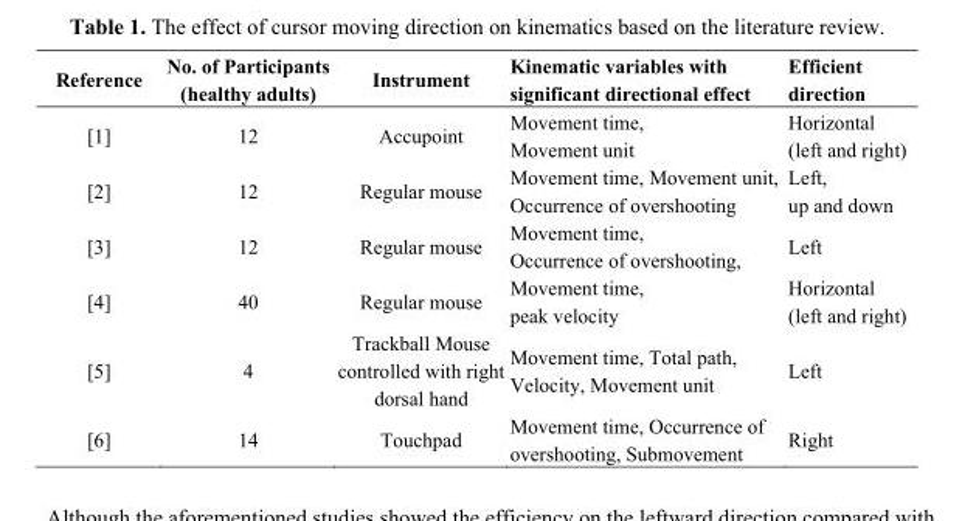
<table><thead><tr><td>Reference</td><td>No. of Participants (healthy adults)</td><td>Instrument</td><td>Kinematic variables with significant directional effect</td><td>Efficient direction</td></tr></thead><tbody><tr><td>[1]</td><td>12</td><td>Accupoint</td><td>Movement time, Movement unit</td><td>Horizontal (left and right)</td></tr><tr><td>[2]</td><td>12</td><td>Regular mouse</td><td>Movement time, Movement unit, Occurrence of overshooting</td><td>Left, up and down</td></tr><tr><td>[3]</td><td>12</td><td>Regular mouse</td><td>Movement time, Occurrence of overshooting,</td><td>Left</td></tr><tr><td>[4]</td><td>40</td><td>Regular mouse</td><td>Movement time, peak velocity</td><td>Horizontal (left and right)</td></tr><tr><td>[5]</td><td>4</td><td>Trackball Mouse controlled with right dorsal hand</td><td>Movement time, Total path, Velocity, Movement unit</td><td>Left</td></tr><tr><td>[6]</td><td>14</td><td>Touchpad</td><td>Movement time, Occurrence of overshooting, Submovement</td><td>Right</td></tr></tbody></table>